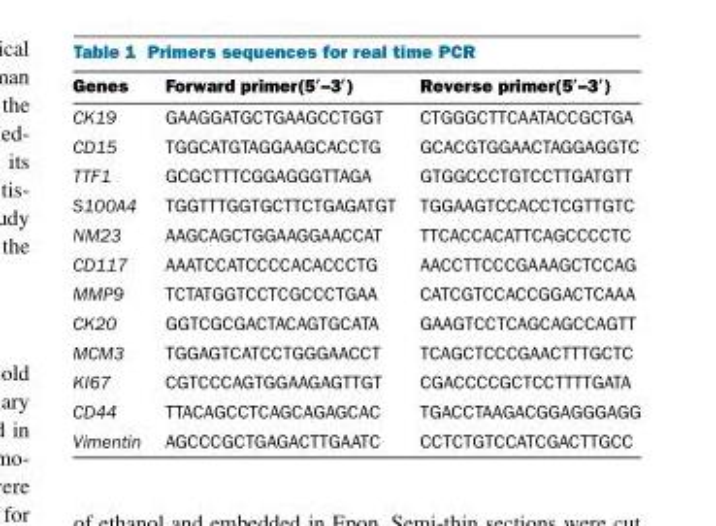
<table><thead><tr><td>Genes</td><td>Forward primer(5′–3′)</td><td>Reverse primer(5′–3′)</td></tr></thead><tbody><tr><td>CK19</td><td>GAAGGATGCTGAAGCCTGGT</td><td>CTGGGCTTCAATACCGCTGA</td></tr><tr><td>CD15</td><td>TGGCATGTAGGAAGCACCTG</td><td>GCACGTGGAACTAGGAGGTC</td></tr><tr><td>TTF1</td><td>GCGCTTTCGGAGGGTTAGA</td><td>GTGGCCCTGTCCTTGATGTT</td></tr><tr><td>S100A4</td><td>TGGTTTGGTGCTTCTGAGATGT</td><td>TGGAAGTCCACCTCGTTGTC</td></tr><tr><td>NM23</td><td>AAGCAGCTGGAAGGAACCAT</td><td>TTCACCACATTCAGCCCCTC</td></tr><tr><td>CD117</td><td>AAATCCATCCCCACACCCTG</td><td>AACCTTCCCGAAAGCTCCAG</td></tr><tr><td>MMP9</td><td>TCTATGGTCCTCGCCCTGAA</td><td>CATCGTCCACCGGACTCAAA</td></tr><tr><td>CK20</td><td>GGTCGCGACTACAGTGCATA</td><td>GAAGTCCTCAGCAGCCAGTT</td></tr><tr><td>MCM3</td><td>TGGAGTCATCCTGGGAACCT</td><td>TCAGCTCCCGAACTTTGCTC</td></tr><tr><td>KI67</td><td>CGTCCCAGTGGAAGAGTTGT</td><td>CGACCCCGCTCCTTTTGATA</td></tr><tr><td>CD44</td><td>TTACAGCCTCAGCAGAGCAC</td><td>TGACCTAAGACGGAGGGAGG</td></tr><tr><td>Vimentin</td><td>AGCCCGCTGAGACTTGAATC</td><td>CCTCTGTCCATCGACTTGCC</td></tr></tbody></table>